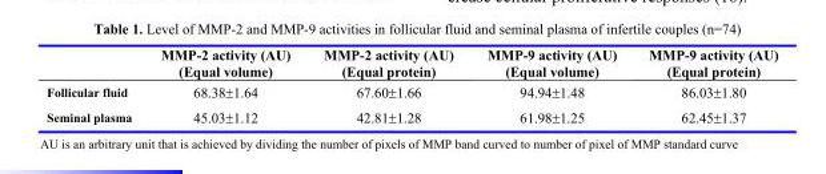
<table><thead><tr><td></td><td>MMP-2 activity (AU) (Equal volume)</td><td>MMP-2 activity (AU) (Equal protein)</td><td>MMP-9 activity (AU) (Equal volume)</td><td>MMP-9 activity (AU) (Equal protein)</td></tr></thead><tbody><tr><td>Follicular fluid</td><td>68.38±1.64</td><td>67.60±1.66</td><td>94.94±1.48</td><td>86.03±1.80</td></tr><tr><td>Seminal plasma</td><td>45.03±1.12</td><td>42.81±1.28</td><td>61.98±1.25</td><td>62.45±1.37</td></tr></tbody></table>